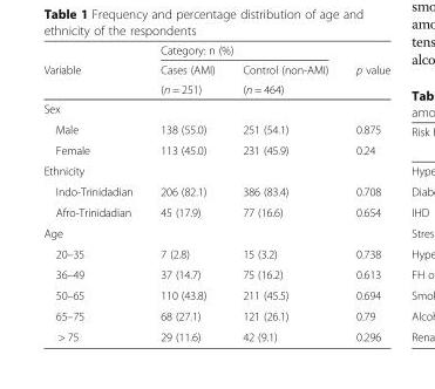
<table><thead><tr><td rowspan="3">Variable</td><td colspan="2">Category: n (%)</td><td rowspan="3">p value</td></tr><tr><td rowspan="2">Cases (AMI) (n = 251)</td><td rowspan="2">Control (non-AMI) (n = 464)</td></tr><tr></tr></thead><tbody><tr><td colspan="4">Sex</td></tr><tr><td>Male</td><td>138 (55.0)</td><td>251 (54.1)</td><td>0.875</td></tr><tr><td>Female</td><td>113 (45.0)</td><td>231 (45.9)</td><td>0.24</td></tr><tr><td colspan="4">Ethnicity</td></tr><tr><td>Indo-Trinidadian</td><td>206 (82.1)</td><td>386 (83.4)</td><td>0.708</td></tr><tr><td>Afro-Trinidadian</td><td>45 (17.9)</td><td>77 (16.6)</td><td>0.654</td></tr><tr><td colspan="4">Age</td></tr><tr><td>20–35</td><td>7 (2.8)</td><td>15 (3.2)</td><td>0.738</td></tr><tr><td>36–49</td><td>37 (14.7)</td><td>75 (16.2)</td><td>0.613</td></tr><tr><td>50–65</td><td>110 (43.8)</td><td>211 (45.5)</td><td>0.694</td></tr><tr><td>65–75</td><td>68 (27.1)</td><td>121 (26.1)</td><td>0.79</td></tr><tr><td>&gt; 75</td><td>29 (11.6)</td><td>42 (9.1)</td><td>0.296</td></tr></tbody></table>